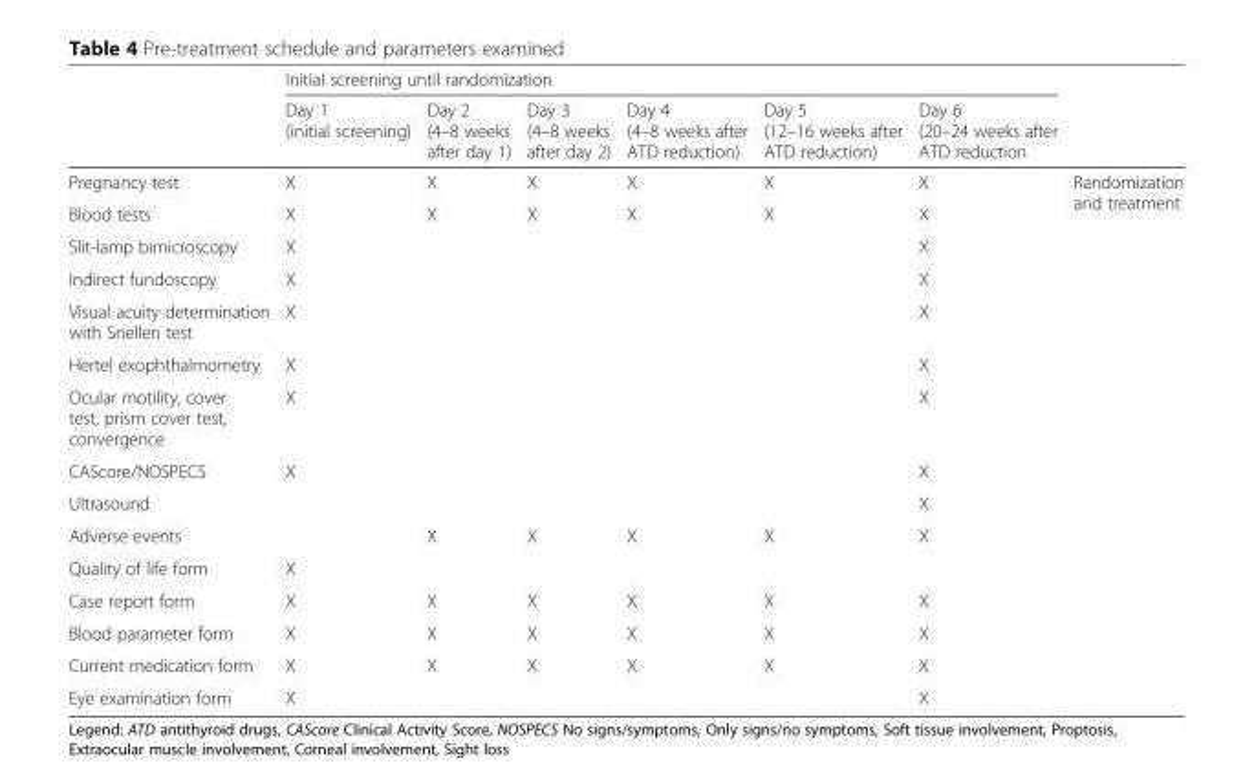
<table><thead><tr><td rowspan="2"></td><td colspan="6">Initial screening until randomization</td><td rowspan="2"></td></tr><tr><td>Day 1 (initial screening)</td><td>Day 2 (4–8 weeks after day 1)</td><td>Day 3 (4–8 weeks after day 2)</td><td>Day 4 (4–8 weeks after ATD reduction)</td><td>Day 5 (12–16 weeks after ATD reduction)</td><td>Day 6 (20–24 weeks after ATD reduction</td></tr></thead><tbody><tr><td>Pregnancy test</td><td>X</td><td>X</td><td>X</td><td>X</td><td>X</td><td>X</td><td rowspan="15">Randomization and treatment</td></tr><tr><td>Blood tests</td><td>X</td><td>X</td><td>X</td><td>X</td><td>X</td><td>X</td></tr><tr><td>Slit-lamp bimicroscopy</td><td>X</td><td></td><td></td><td></td><td></td><td>X</td></tr><tr><td>Indirect fundoscopy</td><td>X</td><td></td><td></td><td></td><td></td><td>X</td></tr><tr><td>Visual acuity determination with Snellen test</td><td>X</td><td></td><td></td><td></td><td></td><td>X</td></tr><tr><td>Hertel exophthalmometry</td><td>X</td><td></td><td></td><td></td><td></td><td>X</td></tr><tr><td>Ocular motility, cover test, prism cover test, convergence</td><td>X</td><td></td><td></td><td></td><td></td><td>X</td></tr><tr><td>CAScore/NOSPECS</td><td>X</td><td></td><td></td><td></td><td></td><td>X</td></tr><tr><td>Ultrasound</td><td></td><td></td><td></td><td></td><td></td><td>X</td></tr><tr><td>Adverse events</td><td></td><td>X</td><td>X</td><td>X</td><td>X</td><td>X</td></tr><tr><td>Quality of life form</td><td>X</td><td></td><td></td><td></td><td></td><td></td></tr><tr><td>Case report form</td><td>X</td><td>X</td><td>X</td><td>X</td><td>X</td><td>X</td></tr><tr><td>Blood parameter form</td><td>X</td><td>X</td><td>X</td><td>X</td><td>X</td><td>X</td></tr><tr><td>Current medication form</td><td>X</td><td>X</td><td>X</td><td>X</td><td>X</td><td>X</td></tr><tr><td>Eye examination form</td><td>X</td><td></td><td></td><td></td><td></td><td>X</td></tr></tbody></table>